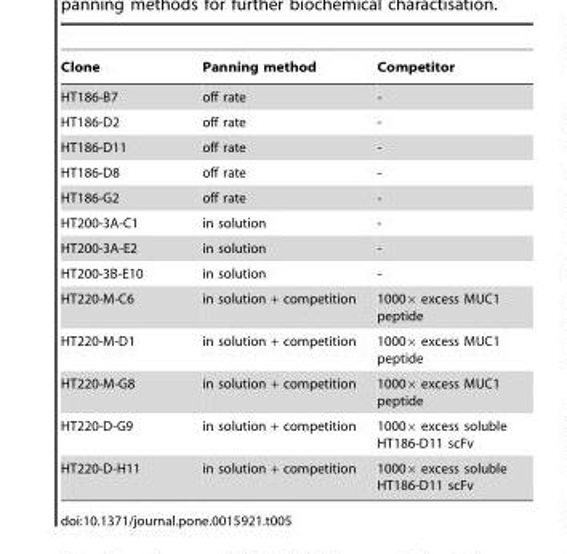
<table><thead><tr><td>Clone</td><td>Panning method</td><td>Competitor</td></tr></thead><tbody><tr><td>HT186-B7</td><td>off rate</td><td>-</td></tr><tr><td>HT186-D2</td><td>off rate</td><td>-</td></tr><tr><td>HT186-D11</td><td>off rate</td><td>-</td></tr><tr><td>HT186-D8</td><td>off rate</td><td>-</td></tr><tr><td>HT186-G2</td><td>off rate</td><td>-</td></tr><tr><td>HT200-3A-C1</td><td>in solution</td><td>-</td></tr><tr><td>HT200-3A-E2</td><td>in solution</td><td>-</td></tr><tr><td>HT200-3B-E10</td><td>in solution</td><td>-</td></tr><tr><td>HT220-M-C6</td><td>in solution + competition</td><td>1000× excess MUC1 peptide</td></tr><tr><td>HT220-M-D1</td><td>in solution + competition</td><td>1000× excess MUC1 peptide</td></tr><tr><td>HT220-M-G8</td><td>in solution + competition</td><td>1000× excess MUC1 peptide</td></tr><tr><td>HT220-D-G9</td><td>in solution + competition</td><td>1000× excess soluble HT186-D11 scFv</td></tr><tr><td>HT220-D-H11</td><td>in solution + competition</td><td>1000× excess soluble HT186-D11 scFv</td></tr></tbody></table>